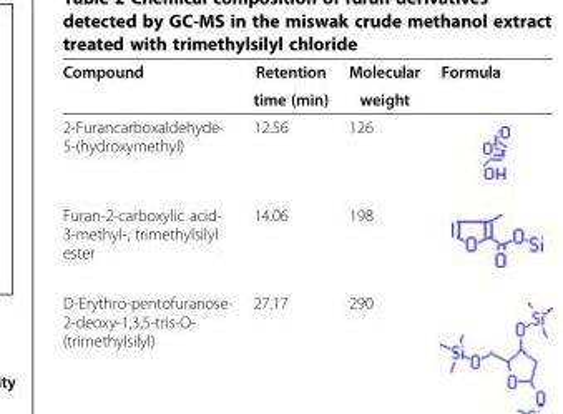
<table><thead><tr><td rowspan="2">Compound</td><td rowspan="2">Retention time (min)</td><td rowspan="2">Molecular weight</td><td rowspan="2">Formula</td></tr><tr></tr></thead><tbody><tr><td>2-Furancarboxaldehyde- 5-(hydroxymethyl)</td><td>12.56</td><td>126</td><td></td></tr><tr><td>Furan-2-carboxylic acid- 3-methyl-, trimethylsilyl ester</td><td>14.06</td><td>198</td><td></td></tr><tr><td>D-Erythro-pentofuranose- 2-deoxy-1,3,5-tris-O- (trimethylsilyl)</td><td>27.17</td><td>290</td><td></td></tr></tbody></table>